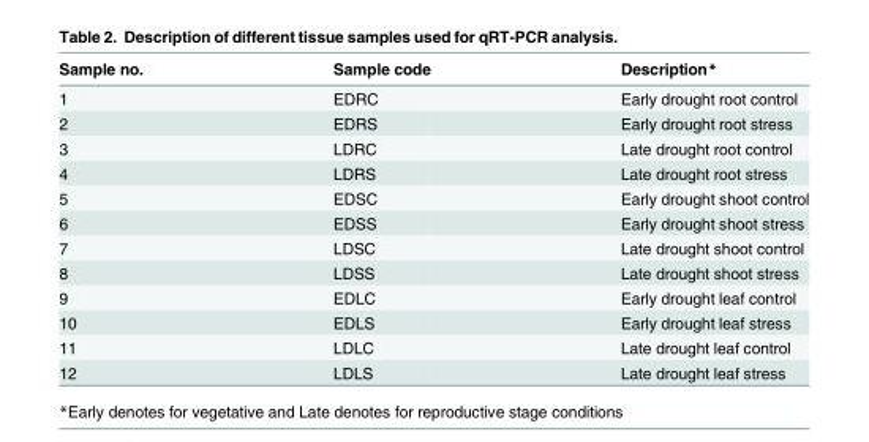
<table><thead><tr><td>Sample no.</td><td>Sample code</td><td>Description*</td></tr></thead><tbody><tr><td>1</td><td>EDRC</td><td>Early drought root control</td></tr><tr><td>2</td><td>EDRS</td><td>Early drought root stress</td></tr><tr><td>3</td><td>LDRC</td><td>Late drought root control</td></tr><tr><td>4</td><td>LDRS</td><td>Late drought root stress</td></tr><tr><td>5</td><td>EDSC</td><td>Early drought shoot control</td></tr><tr><td>6</td><td>EDSS</td><td>Early drought shoot stress</td></tr><tr><td>7</td><td>LDSC</td><td>Late drought shoot control</td></tr><tr><td>8</td><td>LDSS</td><td>Late drought shoot stress</td></tr><tr><td>9</td><td>EDLC</td><td>Early drought leaf control</td></tr><tr><td>10</td><td>EDLS</td><td>Early drought leaf stress</td></tr><tr><td>11</td><td>LDLC</td><td>Late drought leaf control</td></tr><tr><td>12</td><td>LDLS</td><td>Late drought leaf stress</td></tr></tbody></table>